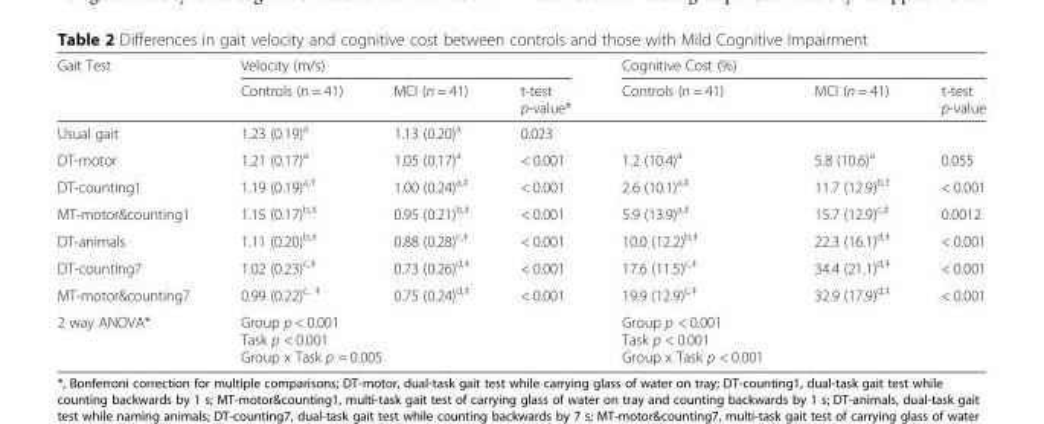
<table><thead><tr><td rowspan="2">Gait Test</td><td colspan="3">Velocity (m/s)</td><td colspan="3">Cognitive Cost (%)</td></tr><tr><td>Controls (n = 41)</td><td>MCI (n = 41)</td><td>t-test p-value*</td><td>Controls (n = 41)</td><td>MCI (n = 41)</td><td>t-test p-value</td></tr></thead><tbody><tr><td>Usual gait</td><td>1.23 (0.19)<sup>a</sup></td><td>1.13 (0.20)<sup>a</sup></td><td>0.023</td><td></td><td></td><td></td></tr><tr><td>DT-motor</td><td>1.21 (0.17)<sup>a</sup></td><td>1.05 (0.17)<sup>a</sup></td><td>&lt; 0.001</td><td>1.2 (10.4)<sup>a</sup></td><td>5.8 (10.6)<sup>a</sup></td><td>0.055</td></tr><tr><td>DT-counting1</td><td>1.19 (0.19)<sup>a,†</sup></td><td>1.00 (0.24)<sup>a,‡</sup></td><td>&lt; 0.001</td><td>2.6 (10.1)<sup>a,‡</sup></td><td>11.7 (12.9)<sup>b,†</sup></td><td>&lt; 0.001</td></tr><tr><td>MT-motor&amp;counting1</td><td>1.15 (0.17)<sup>b,‡</sup></td><td>0.95 (0.21)<sup>b,‡</sup></td><td>&lt; 0.001</td><td>5.9 (13.9)<sup>a,‡</sup></td><td>15.7 (12.9)<sup>c,‡</sup></td><td>0.0012</td></tr><tr><td>DT-animals</td><td>1.11 (0.20)<sup>b,‡</sup></td><td>0.88 (0.28)<sup>c,‡</sup></td><td>&lt; 0.001</td><td>10.0 (12.2)<sup>b,‡</sup></td><td>22.3 (16.1)<sup>d,‡</sup></td><td>&lt; 0.001</td></tr><tr><td>DT-counting7</td><td>1.02 (0.23)<sup>c,‡</sup></td><td>0.73 (0.26)<sup>d,‡</sup></td><td>&lt; 0.001</td><td>17.6 (11.5)<sup>c,‡</sup></td><td>34.4 (21.1)<sup>d,‡</sup></td><td>&lt; 0.001</td></tr><tr><td>MT-motor&amp;counting7</td><td>0.99 (0.22)<sup>c, ‡</sup></td><td>0.75 (0.24)<sup>d,‡</sup></td><td>&lt; 0.001</td><td>19.9 (12.9)<sup>c,‡</sup></td><td>32.9 (17.9)<sup>d,‡</sup></td><td>&lt; 0.001</td></tr><tr><td>2 way ANOVA*</td><td colspan="2">Group p &lt; 0.001 Task p &lt; 0.001 Group x Task p = 0.005</td><td></td><td>Group p &lt; 0.001 Task p &lt; 0.001 Group x Task p &lt; 0.001</td><td colspan="2"></td></tr></tbody></table>